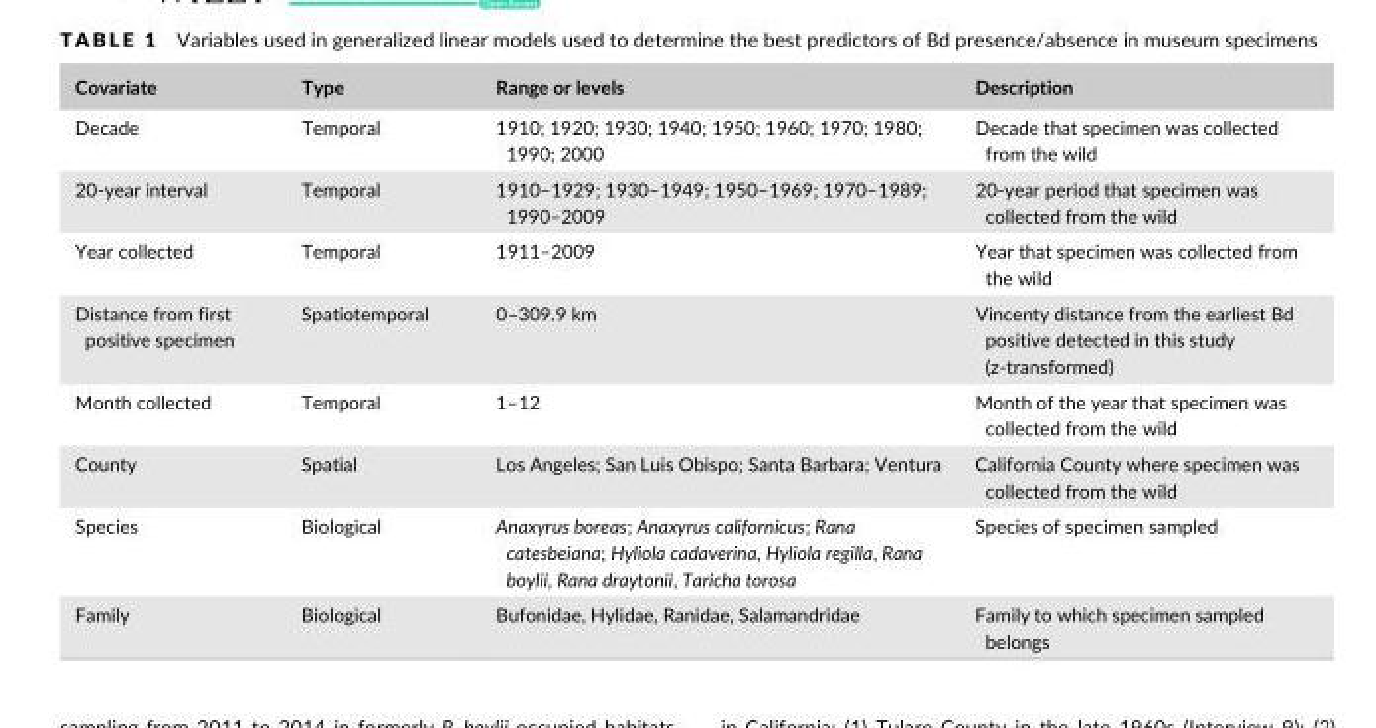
<table><thead><tr><td>Covariate</td><td>Type</td><td>Range or levels</td><td>Description</td></tr></thead><tbody><tr><td>Decade</td><td>Temporal</td><td>1910; 1920; 1930; 1940; 1950; 1960; 1970; 1980; 1990; 2000</td><td>Decade that specimen was collected from the wild</td></tr><tr><td>20- year interval</td><td>Temporal</td><td>1910–1929; 1930–1949; 1950–1969; 1970–1989; 1990–2009</td><td>20- year period that specimen was collected from the wild</td></tr><tr><td>Year collected</td><td>Temporal</td><td>1911–2009</td><td>Year that specimen was collected from the wild</td></tr><tr><td>Distance from first positive specimen</td><td>Spatiotemporal</td><td>0–309.9 km</td><td>Vincenty distance from the earliest Bd positive detected in this study (z-transformed)</td></tr><tr><td>Month collected</td><td>Temporal</td><td>1–12</td><td>Month of the year that specimen was collected from the wild</td></tr><tr><td>County</td><td>Spatial</td><td>Los Angeles; San Luis Obispo; Santa Barbara; Ventura</td><td>California County where specimen was collected from the wild</td></tr><tr><td>Species</td><td>Biological</td><td>Anaxyrus boreas; Anaxyrus californicus; Rana catesbeiana; Hyliola cadaverina, Hyliola regilla, Rana boylii, Rana draytonii, Taricha torosa</td><td>Species of specimen sampled</td></tr><tr><td>Family</td><td>Biological</td><td>Bufonidae, Hylidae, Ranidae, Salamandridae</td><td>Family to which specimen sampled belongs</td></tr></tbody></table>